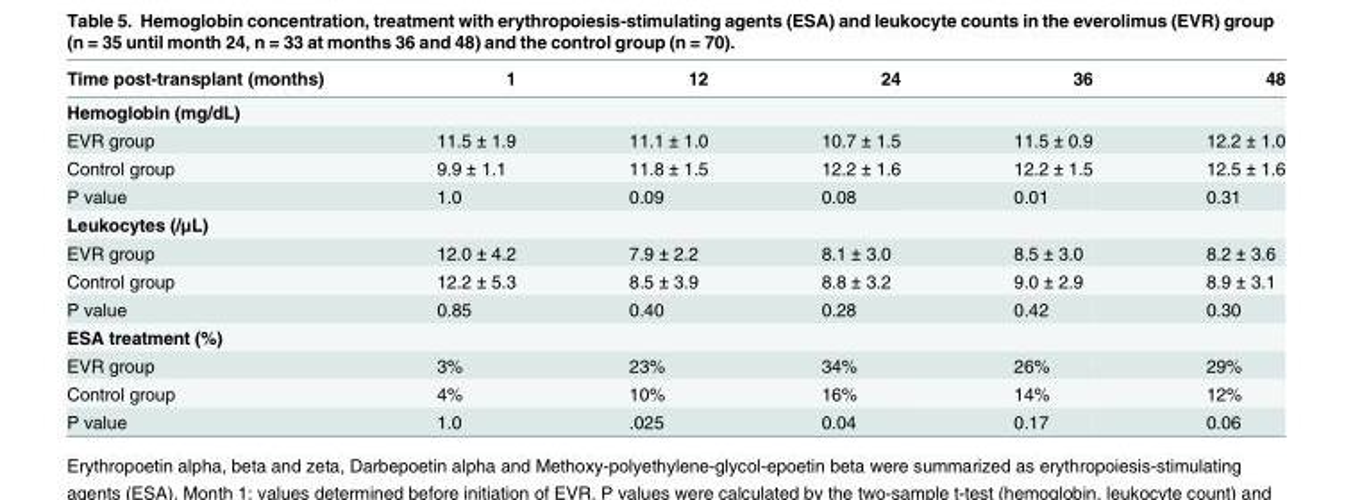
<table><thead><tr><td>Time post-transplant (months)</td><td>1</td><td>12</td><td>24</td><td>36</td><td>48</td></tr></thead><tbody><tr><td colspan="6">Hemoglobin (mg/dL)</td></tr><tr><td>EVR group</td><td>11.5 ± 1.9</td><td>11.1 ± 1.0</td><td>10.7 ± 1.5</td><td>11.5 ± 0.9</td><td>12.2 ± 1.0</td></tr><tr><td>Control group</td><td>9.9 ± 1.1</td><td>11.8 ± 1.5</td><td>12.2 ± 1.6</td><td>12.2 ± 1.5</td><td>12.5 ± 1.6</td></tr><tr><td>P value</td><td>1.0</td><td>0.09</td><td>0.08</td><td>0.01</td><td>0.31</td></tr><tr><td colspan="6">Leukocytes (/μL)</td></tr><tr><td>EVR group</td><td>12.0 ± 4.2</td><td>7.9 ± 2.2</td><td>8.1 ± 3.0</td><td>8.5 ± 3.0</td><td>8.2 ± 3.6</td></tr><tr><td>Control group</td><td>12.2 ± 5.3</td><td>8.5 ± 3.9</td><td>8.8 ± 3.2</td><td>9.0 ± 2.9</td><td>8.9 ± 3.1</td></tr><tr><td>P value</td><td>0.85</td><td>0.40</td><td>0.28</td><td>0.42</td><td>0.30</td></tr><tr><td colspan="6">ESA treatment (%)</td></tr><tr><td>EVR group</td><td>3%</td><td>23%</td><td>34%</td><td>26%</td><td>29%</td></tr><tr><td>Control group</td><td>4%</td><td>10%</td><td>16%</td><td>14%</td><td>12%</td></tr><tr><td>P value</td><td>1.0</td><td>.025</td><td>0.04</td><td>0.17</td><td>0.06</td></tr></tbody></table>